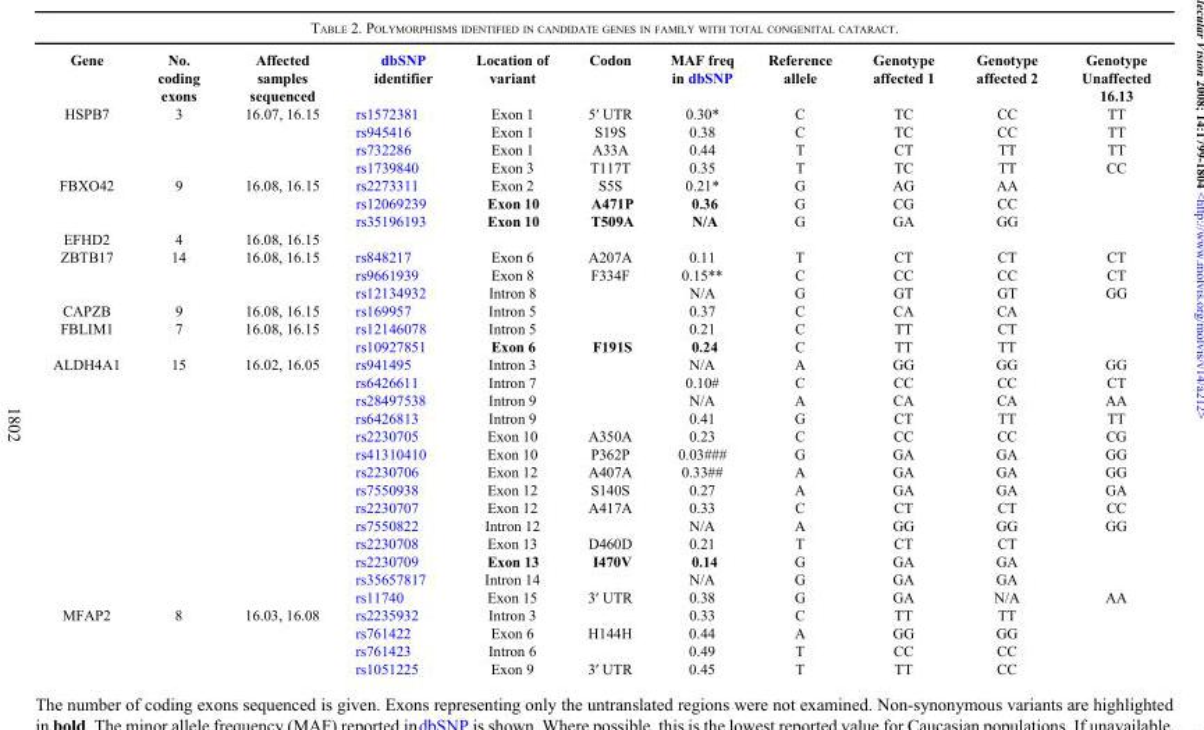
<table><thead><tr><td>Gene</td><td>No. coding exons</td><td>Affected samples sequenced</td><td>dbSNP identifier</td><td>Location of variant</td><td>Codon</td><td>MAF freq in dbSNP</td><td>Reference allele</td><td>Genotype affected 1</td><td>Genotype affected 2</td><td>Genotype Unaffected 16.13</td></tr></thead><tbody><tr><td rowspan="4">HSPB7</td><td>3</td><td>16.07, 16.15</td><td>rs1572381</td><td>Exon 1</td><td>5′ UTR</td><td>0.30*</td><td>C</td><td>TC</td><td>CC</td><td>TT</td></tr><tr><td></td><td></td><td>rs945416</td><td>Exon 1</td><td>S19S</td><td>0.38</td><td>C</td><td>TC</td><td>CC</td><td>TT</td></tr><tr><td></td><td></td><td>rs732286</td><td>Exon 1</td><td>A33A</td><td>0.44</td><td>T</td><td>CT</td><td>TT</td><td>TT</td></tr><tr><td></td><td></td><td>rs1739840</td><td>Exon 3</td><td>T117T</td><td>0.35</td><td>T</td><td>TC</td><td>TT</td><td>CC</td></tr><tr><td rowspan="3">FBXO42</td><td>9</td><td>16.08, 16.15</td><td>rs2273311</td><td>Exon 2</td><td>S5S</td><td>0.21*</td><td>G</td><td>AG</td><td>AA</td><td></td></tr><tr><td></td><td></td><td>rs12069239</td><td>Exon 10</td><td>A471P</td><td>0.36</td><td>G</td><td>CG</td><td>CC</td><td></td></tr><tr><td></td><td></td><td>rs35196193</td><td>Exon 10</td><td>T509A</td><td>N/A</td><td>G</td><td>GA</td><td>GG</td><td></td></tr><tr><td>EFHD2</td><td>4</td><td>16.08, 16.15</td><td></td><td></td><td></td><td></td><td></td><td></td><td></td><td></td></tr><tr><td rowspan="3">ZBTB17</td><td>14</td><td>16.08, 16.15</td><td>rs848217</td><td>Exon 6</td><td>A207A</td><td>0.11</td><td>T</td><td>CT</td><td>CT</td><td>CT</td></tr><tr><td></td><td></td><td>rs9661939</td><td>Exon 8</td><td>F334F</td><td>0.15**</td><td>C</td><td>CC</td><td>CC</td><td>CT</td></tr><tr><td></td><td></td><td>rs12134932</td><td>Intron 8</td><td></td><td>N/A</td><td>G</td><td>GT</td><td>GT</td><td>GG</td></tr><tr><td>CAPZB</td><td>9</td><td>16.08, 16.15</td><td>rs169957</td><td>Intron 5</td><td></td><td>0.37</td><td>C</td><td>CA</td><td>CA</td><td></td></tr><tr><td rowspan="2">FBLIM1</td><td>7</td><td>16.08, 16.15</td><td>rs12146078</td><td>Intron 5</td><td></td><td>0.21</td><td>C</td><td>TT</td><td>CT</td><td></td></tr><tr><td></td><td></td><td>rs10927851</td><td>Exon 6</td><td>F191S</td><td>0.24</td><td>C</td><td>TT</td><td>TT</td><td></td></tr><tr><td rowspan="14">ALDH4A1</td><td>15</td><td>16.02, 16.05</td><td>rs941495</td><td>Intron 3</td><td></td><td>N/A</td><td>A</td><td>GG</td><td>GG</td><td>GG</td></tr><tr><td></td><td></td><td>rs6426611</td><td>Intron 7</td><td></td><td>0.10#</td><td>C</td><td>CC</td><td>CC</td><td>CT</td></tr><tr><td></td><td></td><td>rs28497538</td><td>Intron 9</td><td></td><td>N/A</td><td>A</td><td>CA</td><td>CA</td><td>AA</td></tr><tr><td></td><td></td><td>rs6426813</td><td>Intron 9</td><td></td><td>0.41</td><td>G</td><td>CT</td><td>TT</td><td>TT</td></tr><tr><td></td><td></td><td>rs2230705</td><td>Exon 10</td><td>A350A</td><td>0.23</td><td>C</td><td>CC</td><td>CC</td><td>CG</td></tr><tr><td></td><td></td><td>rs41310410</td><td>Exon 10</td><td>P362P</td><td>0.03###</td><td>G</td><td>GA</td><td>GA</td><td>GG</td></tr><tr><td></td><td></td><td>rs2230706</td><td>Exon 12</td><td>A407A</td><td>0.33##</td><td>A</td><td>GA</td><td>GA</td><td>GG</td></tr><tr><td></td><td></td><td>rs7550938</td><td>Exon 12</td><td>S140S</td><td>0.27</td><td>A</td><td>GA</td><td>GA</td><td>GA</td></tr><tr><td></td><td></td><td>rs2230707</td><td>Exon 12</td><td>A417A</td><td>0.33</td><td>C</td><td>CT</td><td>CT</td><td>CC</td></tr><tr><td></td><td></td><td>rs7550822</td><td>Intron 12</td><td></td><td>N/A</td><td>A</td><td>GG</td><td>GG</td><td>GG</td></tr><tr><td></td><td></td><td>rs2230708</td><td>Exon 13</td><td>D460D</td><td>0.21</td><td>T</td><td>CT</td><td>CT</td><td></td></tr><tr><td></td><td></td><td>rs2230709</td><td>Exon 13</td><td>I470V</td><td>0.14</td><td>G</td><td>GA</td><td>GA</td><td></td></tr><tr><td></td><td></td><td>rs35657817</td><td>Intron 14</td><td></td><td>N/A</td><td>G</td><td>GA</td><td>GA</td><td></td></tr><tr><td></td><td></td><td>rs11740</td><td>Exon 15</td><td>3′ UTR</td><td>0.38</td><td>G</td><td>GA</td><td>N/A</td><td>AA</td></tr><tr><td rowspan="4">MFAP2</td><td>8</td><td>16.03, 16.08</td><td>rs2235932</td><td>Intron 3</td><td></td><td>0.33</td><td>C</td><td>TT</td><td>TT</td><td></td></tr><tr><td></td><td></td><td>rs761422</td><td>Exon 6</td><td>H144H</td><td>0.44</td><td>A</td><td>GG</td><td>GG</td><td></td></tr><tr><td></td><td></td><td>rs761423</td><td>Intron 6</td><td></td><td>0.49</td><td>T</td><td>CC</td><td>CC</td><td></td></tr><tr><td></td><td></td><td>rs1051225</td><td>Exon 9</td><td>3′ UTR</td><td>0.45</td><td>T</td><td>TT</td><td>CC</td><td></td></tr></tbody></table>